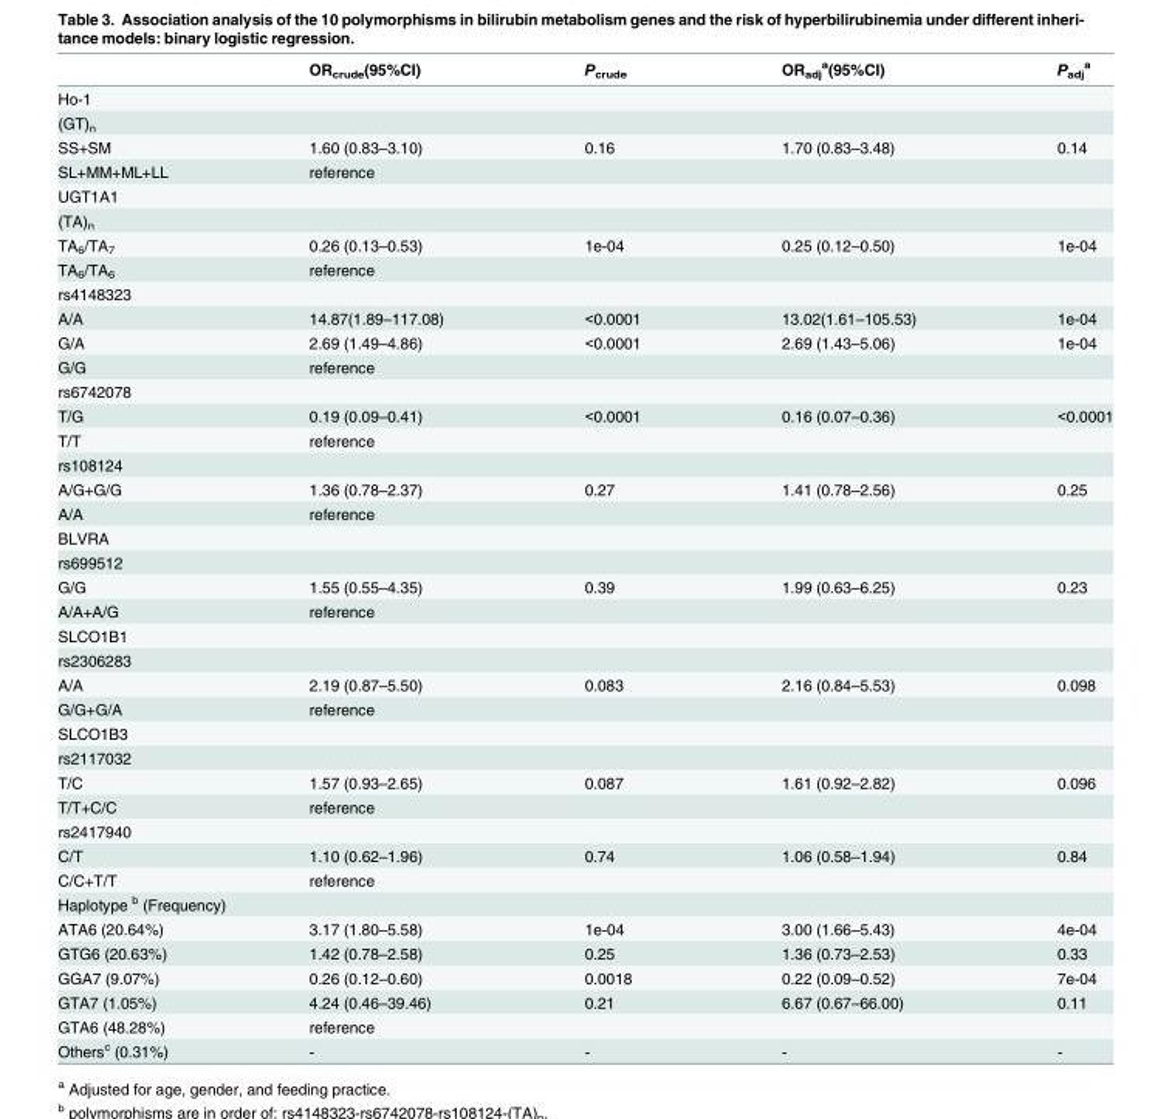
<table><thead><tr><td></td><td>OR<sub>crude</sub>(95%CI)</td><td>P<sub>crude</sub></td><td>OR<sub>adj</sub> <sup>a</sup>(95%CI)</td><td>P<sub>adj</sub> <sup>a</sup></td></tr></thead><tbody><tr><td colspan="5">Ho-1</td></tr><tr><td colspan="5">(GT)<sub>n</sub></td></tr><tr><td>SS+SM</td><td>1.60 (0.83–3.10)</td><td>0.16</td><td>1.70 (0.83–3.48)</td><td>0.14</td></tr><tr><td>SL+MM+ML+LL</td><td>reference</td><td></td><td></td><td></td></tr><tr><td colspan="5">UGT1A1</td></tr><tr><td colspan="5">(TA)<sub>n</sub></td></tr><tr><td>TA<sub>6</sub>/TA<sub>7</sub></td><td>0.26 (0.13–0.53)</td><td>1e-04</td><td>0.25 (0.12–0.50)</td><td>1e-04</td></tr><tr><td>TA<sub>6</sub>/TA<sub>6</sub></td><td>reference</td><td></td><td></td><td></td></tr><tr><td colspan="5">rs4148323</td></tr><tr><td>A/A</td><td>14.87(1.89–117.08)</td><td>&lt;0.0001</td><td>13.02(1.61–105.53)</td><td>1e-04</td></tr><tr><td>G/A</td><td>2.69 (1.49–4.86)</td><td>&lt;0.0001</td><td>2.69 (1.43–5.06)</td><td>1e-04</td></tr><tr><td>G/G</td><td>reference</td><td></td><td></td><td></td></tr><tr><td colspan="5">rs6742078</td></tr><tr><td>T/G</td><td>0.19 (0.09–0.41)</td><td>&lt;0.0001</td><td>0.16 (0.07–0.36)</td><td>&lt;0.0001</td></tr><tr><td>T/T</td><td>reference</td><td></td><td></td><td></td></tr><tr><td colspan="5">rs108124</td></tr><tr><td>A/G+G/G</td><td>1.36 (0.78–2.37)</td><td>0.27</td><td>1.41 (0.78–2.56)</td><td>0.25</td></tr><tr><td>A/A</td><td>reference</td><td></td><td></td><td></td></tr><tr><td colspan="5">BLVRA</td></tr><tr><td colspan="5">rs699512</td></tr><tr><td>G/G</td><td>1.55 (0.55–4.35)</td><td>0.39</td><td>1.99 (0.63–6.25)</td><td>0.23</td></tr><tr><td>A/A+A/G</td><td>reference</td><td></td><td></td><td></td></tr><tr><td colspan="5">SLCO1B1</td></tr><tr><td colspan="5">rs2306283</td></tr><tr><td>A/A</td><td>2.19 (0.87–5.50)</td><td>0.083</td><td>2.16 (0.84–5.53)</td><td>0.098</td></tr><tr><td>G/G+G/A</td><td>reference</td><td></td><td></td><td></td></tr><tr><td colspan="5">SLCO1B3</td></tr><tr><td colspan="5">rs2117032</td></tr><tr><td>T/C</td><td>1.57 (0.93–2.65)</td><td>0.087</td><td>1.61 (0.92–2.82)</td><td>0.096</td></tr><tr><td>T/T+C/C</td><td>reference</td><td></td><td></td><td></td></tr><tr><td colspan="5">rs2417940</td></tr><tr><td>C/T</td><td>1.10 (0.62–1.96)</td><td>0.74</td><td>1.06 (0.58–1.94)</td><td>0.84</td></tr><tr><td>C/C+T/T</td><td>reference</td><td></td><td></td><td></td></tr><tr><td colspan="5">Haplotype <sup>b</sup> (Frequency)</td></tr><tr><td>ATA6 (20.64%)</td><td>3.17 (1.80–5.58)</td><td>1e-04</td><td>3.00 (1.66–5.43)</td><td>4e-04</td></tr><tr><td>GTG6 (20.63%)</td><td>1.42 (0.78–2.58)</td><td>0.25</td><td>1.36 (0.73–2.53)</td><td>0.33</td></tr><tr><td>GGA7 (9.07%)</td><td>0.26 (0.12–0.60)</td><td>0.0018</td><td>0.22 (0.09–0.52)</td><td>7e-04</td></tr><tr><td>GTA7 (1.05%)</td><td>4.24 (0.46–39.46)</td><td>0.21</td><td>6.67 (0.67–66.00)</td><td>0.11</td></tr><tr><td>GTA6 (48.28%)</td><td>reference</td><td></td><td></td><td></td></tr><tr><td>Others<sup>c</sup> (0.31%)</td><td>-</td><td>-</td><td>-</td><td>-</td></tr></tbody></table>